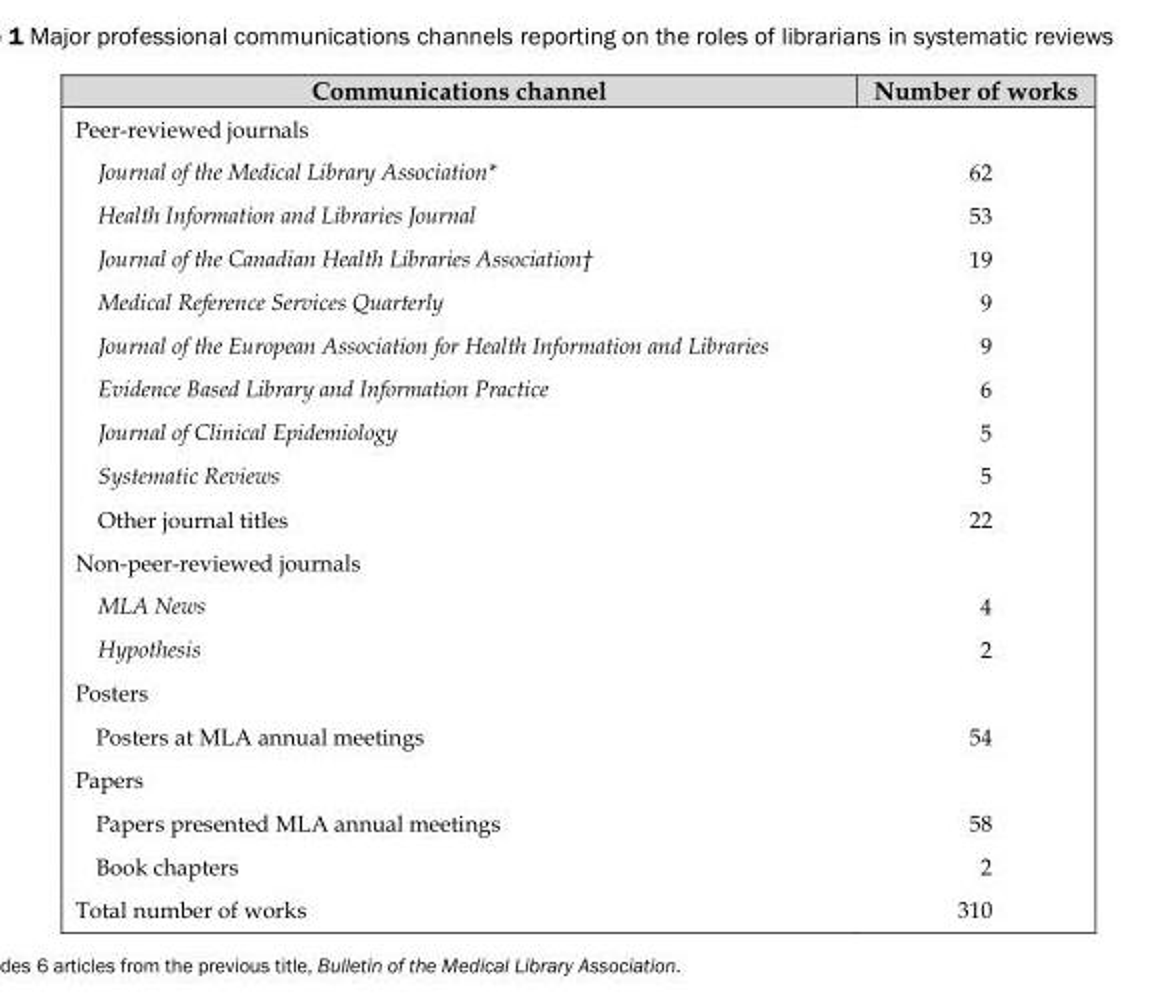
<table><thead><tr><td>Communications channel</td><td>Number of works</td></tr></thead><tbody><tr><td colspan="2">Peer-reviewed journals</td></tr><tr><td>Journal of the Medical Library Association*</td><td>62</td></tr><tr><td>Health Information and Libraries Journal</td><td>53</td></tr><tr><td>Journal of the Canadian Health Libraries Association†</td><td>19</td></tr><tr><td>Medical Reference Services Quarterly</td><td>9</td></tr><tr><td>Journal of the European Association for Health Information and Libraries</td><td>9</td></tr><tr><td>Evidence Based Library and Information Practice</td><td>6</td></tr><tr><td>Journal of Clinical Epidemiology</td><td>5</td></tr><tr><td>Systematic Reviews</td><td>5</td></tr><tr><td>Other journal titles</td><td>22</td></tr><tr><td colspan="2">Non-peer-reviewed journals</td></tr><tr><td>MLA News</td><td>4</td></tr><tr><td>Hypothesis</td><td>2</td></tr><tr><td colspan="2">Posters</td></tr><tr><td>Posters at MLA annual meetings</td><td>54</td></tr><tr><td colspan="2">Papers</td></tr><tr><td>Papers presented MLA annual meetings</td><td>58</td></tr><tr><td>Book chapters</td><td>2</td></tr><tr><td>Total number of works</td><td>310</td></tr></tbody></table>